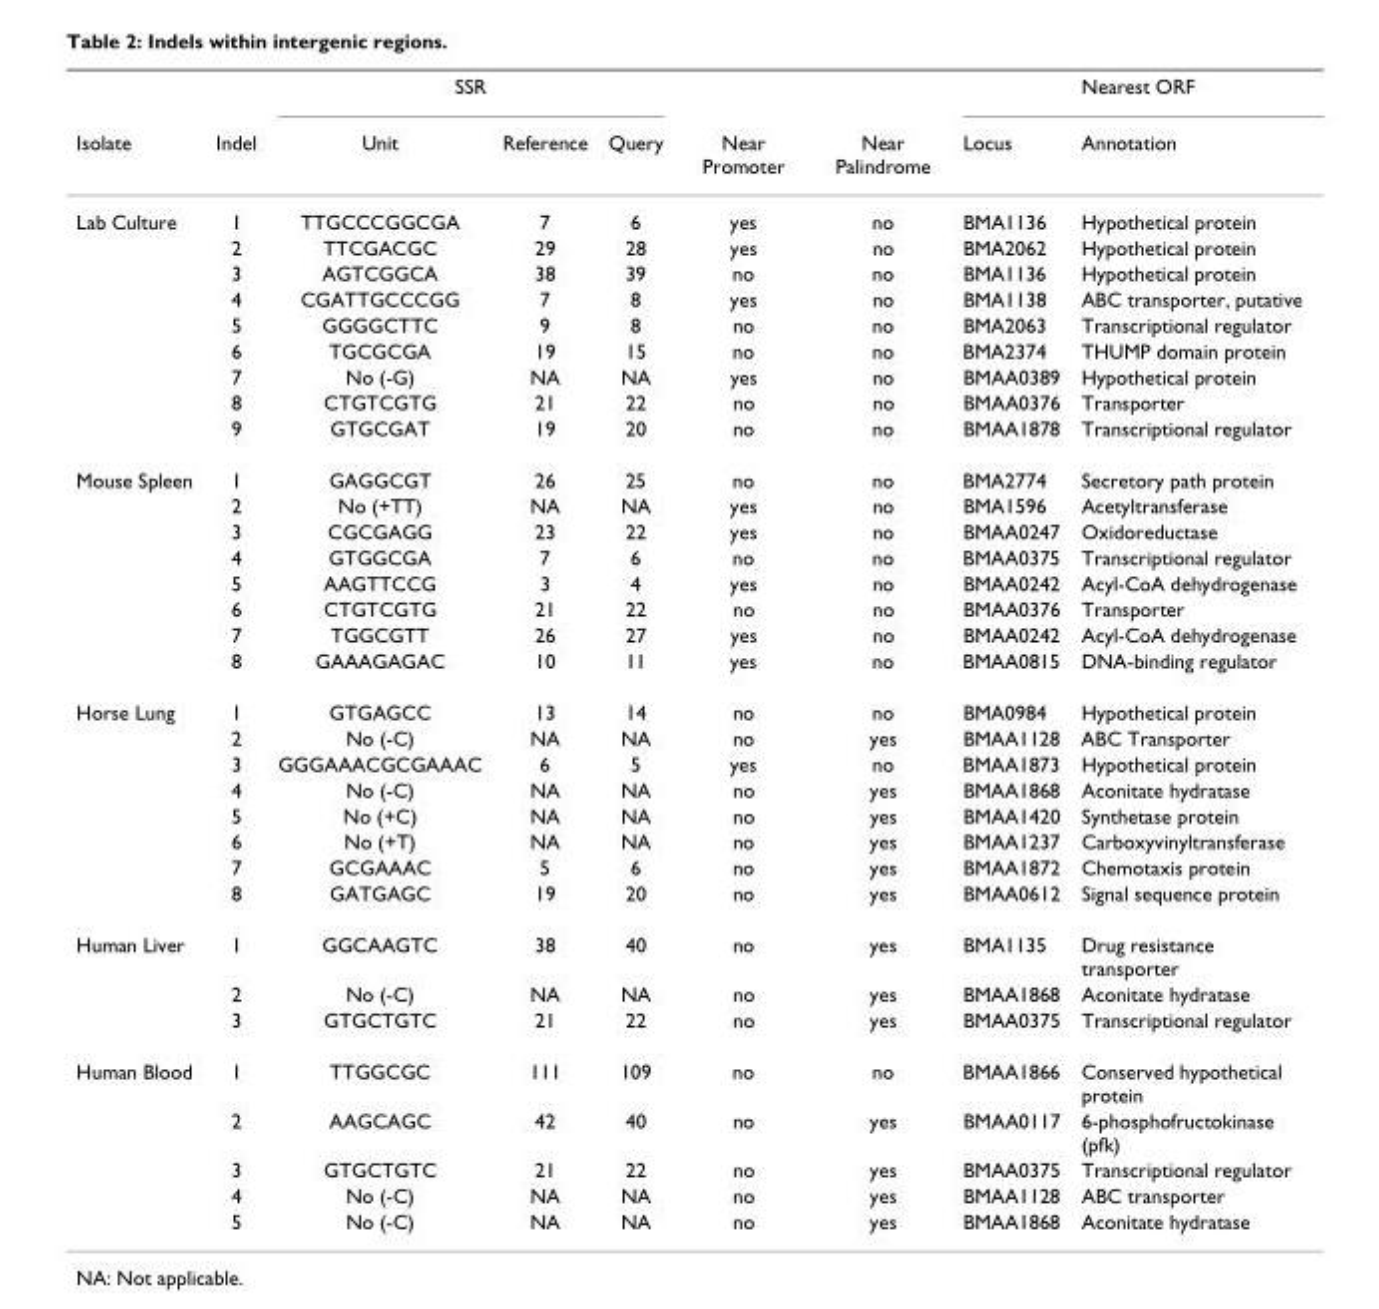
<table><thead><tr><td rowspan="2">Isolate</td><td rowspan="2">Indel</td><td colspan="3">SSR</td><td rowspan="2">Near Promoter</td><td rowspan="2">Near Palindrome</td><td colspan="2">Nearest ORF</td></tr><tr><td>Unit</td><td>Reference</td><td>Query</td><td>Locus</td><td>Annotation</td></tr></thead><tbody><tr><td rowspan="9">Lab Culture</td><td>1</td><td>TTGCCCGGCGA</td><td>7</td><td>6</td><td>yes</td><td>no</td><td>BMA1136</td><td>Hypothetical protein</td></tr><tr><td>2</td><td>TTCGACGC</td><td>29</td><td>28</td><td>yes</td><td>no</td><td>BMA2062</td><td>Hypothetical protein</td></tr><tr><td>3</td><td>AGTCGGCA</td><td>38</td><td>39</td><td>no</td><td>no</td><td>BMA1136</td><td>Hypothetical protein</td></tr><tr><td>4</td><td>CGATTGCCCGG</td><td>7</td><td>8</td><td>yes</td><td>no</td><td>BMA1138</td><td>ABC transporter, putative</td></tr><tr><td>5</td><td>GGGGCTTC</td><td>9</td><td>8</td><td>no</td><td>no</td><td>BMA2063</td><td>Transcriptional regulator</td></tr><tr><td>6</td><td>TGCGCGA</td><td>19</td><td>15</td><td>no</td><td>no</td><td>BMA2374</td><td>THUMP domain protein</td></tr><tr><td>7</td><td>No (-G)</td><td>NA</td><td>NA</td><td>yes</td><td>no</td><td>BMAA0389</td><td>Hypothetical protein</td></tr><tr><td>8</td><td>CTGTCGTG</td><td>21</td><td>22</td><td>no</td><td>no</td><td>BMAA0376</td><td>Transporter</td></tr><tr><td>9</td><td>GTGCGAT</td><td>19</td><td>20</td><td>no</td><td>no</td><td>BMAA1878</td><td>Transcriptional regulator</td></tr><tr><td rowspan="8">Mouse Spleen</td><td>1</td><td>GAGGCGT</td><td>26</td><td>25</td><td>no</td><td>no</td><td>BMA2774</td><td>Secretory path protein</td></tr><tr><td>2</td><td>No (+TT)</td><td>NA</td><td>NA</td><td>yes</td><td>no</td><td>BMA1596</td><td>Acetyltransferase</td></tr><tr><td>3</td><td>CGCGAGG</td><td>23</td><td>22</td><td>yes</td><td>no</td><td>BMAA0247</td><td>Oxidoreductase</td></tr><tr><td>4</td><td>GTGGCGA</td><td>7</td><td>6</td><td>no</td><td>no</td><td>BMAA0375</td><td>Transcriptional regulator</td></tr><tr><td>5</td><td>AAGTTCCG</td><td>3</td><td>4</td><td>yes</td><td>no</td><td>BMAA0242</td><td>Acyl-CoA dehydrogenase</td></tr><tr><td>6</td><td>CTGTCGTG</td><td>21</td><td>22</td><td>no</td><td>no</td><td>BMAA0376</td><td>Transporter</td></tr><tr><td>7</td><td>TGGCGTT</td><td>26</td><td>27</td><td>yes</td><td>no</td><td>BMAA0242</td><td>Acyl-CoA dehydrogenase</td></tr><tr><td>8</td><td>GAAAGAGAC</td><td>10</td><td>11</td><td>yes</td><td>no</td><td>BMAA0815</td><td>DNA-binding regulator</td></tr><tr><td rowspan="8">Horse Lung</td><td>1</td><td>GTGAGCC</td><td>13</td><td>14</td><td>no</td><td>no</td><td>BMA0984</td><td>Hypothetical protein</td></tr><tr><td>2</td><td>No (-C)</td><td>NA</td><td>NA</td><td>no</td><td>yes</td><td>BMAA1128</td><td>ABC Transporter</td></tr><tr><td>3</td><td>GGGAAACGCGAAAC</td><td>6</td><td>5</td><td>yes</td><td>no</td><td>BMAA1873</td><td>Hypothetical protein</td></tr><tr><td>4</td><td>No (-C)</td><td>NA</td><td>NA</td><td>no</td><td>yes</td><td>BMAA1868</td><td>Aconitate hydratase</td></tr><tr><td>5</td><td>No (+C)</td><td>NA</td><td>NA</td><td>no</td><td>yes</td><td>BMAA1420</td><td>Synthetase protein</td></tr><tr><td>6</td><td>No (+T)</td><td>NA</td><td>NA</td><td>no</td><td>yes</td><td>BMAA1237</td><td>Carboxyvinyltransferase</td></tr><tr><td>7</td><td>GCGAAAC</td><td>5</td><td>6</td><td>no</td><td>yes</td><td>BMAA1872</td><td>Chemotaxis protein</td></tr><tr><td>8</td><td>GATGAGC</td><td>19</td><td>20</td><td>no</td><td>yes</td><td>BMAA0612</td><td>Signal sequence protein</td></tr><tr><td rowspan="3">Human Liver</td><td>1</td><td>GGCAAGTC</td><td>38</td><td>40</td><td>no</td><td>yes</td><td>BMA1135</td><td>Drug resistance transporter</td></tr><tr><td>2</td><td>No (-C)</td><td>NA</td><td>NA</td><td>no</td><td>yes</td><td>BMAA1868</td><td>Aconitate hydratase</td></tr><tr><td>3</td><td>GTGCTGTC</td><td>21</td><td>22</td><td>no</td><td>yes</td><td>BMAA0375</td><td>Transcriptional regulator</td></tr><tr><td rowspan="5">Human Blood</td><td>1</td><td>TTGGCGC</td><td>111</td><td>109</td><td>no</td><td>no</td><td>BMAA1866</td><td>Conserved hypothetical protein</td></tr><tr><td>2</td><td>AAGCAGC</td><td>42</td><td>40</td><td>no</td><td>yes</td><td>BMAA0117</td><td>6-phosphofructokinase (pfk)</td></tr><tr><td>3</td><td>GTGCTGTC</td><td>21</td><td>22</td><td>no</td><td>yes</td><td>BMAA0375</td><td>Transcriptional regulator</td></tr><tr><td>4</td><td>No (-C)</td><td>NA</td><td>NA</td><td>no</td><td>yes</td><td>BMAA1128</td><td>ABC transporter</td></tr><tr><td>5</td><td>No (-C)</td><td>NA</td><td>NA</td><td>no</td><td>yes</td><td>BMAA1868</td><td>Aconitate hydratase</td></tr></tbody></table>